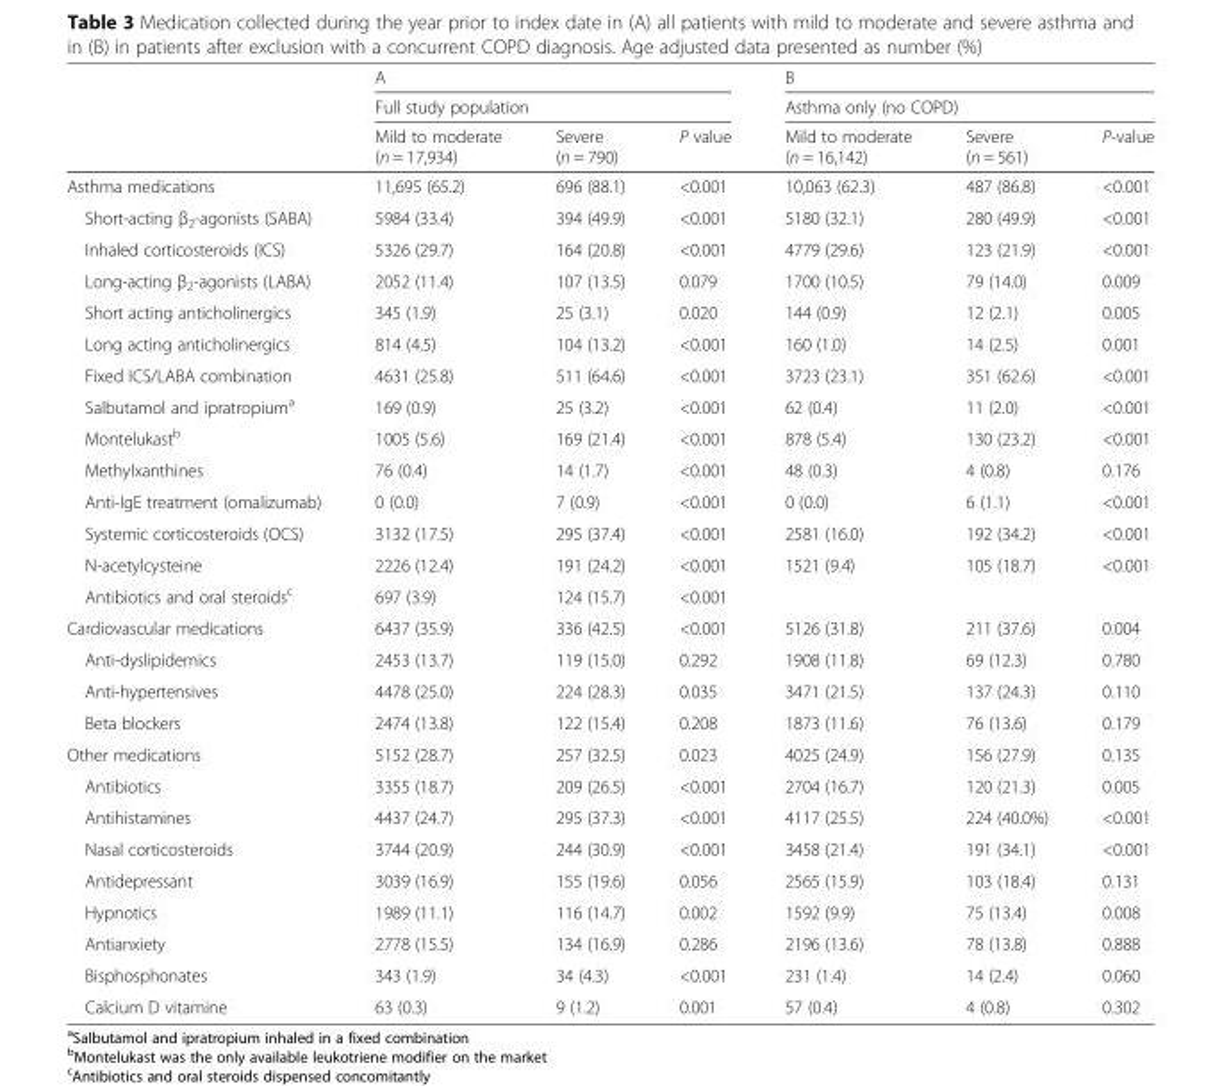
<table><thead><tr><td rowspan="3"></td><td rowspan="2" colspan="3">A Full study population</td><td rowspan="2" colspan="3">B Asthma only (no COPD)</td></tr><tr></tr><tr><td>Mild to moderate (n = 17,934)</td><td>Severe (n = 790)</td><td>P value</td><td>Mild to moderate (n = 16,142)</td><td>Severe (n = 561)</td><td>P-value</td></tr></thead><tbody><tr><td>Asthma medications</td><td>11,695 (65.2)</td><td>696 (88.1)</td><td>&lt;0.001</td><td>10,063 (62.3)</td><td>487 (86.8)</td><td>&lt;0.001</td></tr><tr><td>Short-acting β<sub>2</sub>-agonists (SABA)</td><td>5984 (33.4)</td><td>394 (49.9)</td><td>&lt;0.001</td><td>5180 (32.1)</td><td>280 (49.9)</td><td>&lt;0.001</td></tr><tr><td>Inhaled corticosteroids (ICS)</td><td>5326 (29.7)</td><td>164 (20.8)</td><td>&lt;0.001</td><td>4779 (29.6)</td><td>123 (21.9)</td><td>&lt;0.001</td></tr><tr><td>Long-acting β<sub>2</sub>-agonists (LABA)</td><td>2052 (11.4)</td><td>107 (13.5)</td><td>0.079</td><td>1700 (10.5)</td><td>79 (14.0)</td><td>0.009</td></tr><tr><td>Short acting anticholinergics</td><td>345 (1.9)</td><td>25 (3.1)</td><td>0.020</td><td>144 (0.9)</td><td>12 (2.1)</td><td>0.005</td></tr><tr><td>Long acting anticholinergics</td><td>814 (4.5)</td><td>104 (13.2)</td><td>&lt;0.001</td><td>160 (1.0)</td><td>14 (2.5)</td><td>0.001</td></tr><tr><td>Fixed ICS/LABA combination</td><td>4631 (25.8)</td><td>511 (64.6)</td><td>&lt;0.001</td><td>3723 (23.1)</td><td>351 (62.6)</td><td>&lt;0.001</td></tr><tr><td>Salbutamol and ipratropium<sup>a</sup></td><td>169 (0.9)</td><td>25 (3.2)</td><td>&lt;0.001</td><td>62 (0.4)</td><td>11 (2.0)</td><td>&lt;0.001</td></tr><tr><td>Montelukast<sup>b</sup></td><td>1005 (5.6)</td><td>169 (21.4)</td><td>&lt;0.001</td><td>878 (5.4)</td><td>130 (23.2)</td><td>&lt;0.001</td></tr><tr><td>Methylxanthines</td><td>76 (0.4)</td><td>14 (1.7)</td><td>&lt;0.001</td><td>48 (0.3)</td><td>4 (0.8)</td><td>0.176</td></tr><tr><td>Anti-IgE treatment (omalizumab)</td><td>0 (0.0)</td><td>7 (0.9)</td><td>&lt;0.001</td><td>0 (0.0)</td><td>6 (1.1)</td><td>&lt;0.001</td></tr><tr><td>Systemic corticosteroids (OCS)</td><td>3132 (17.5)</td><td>295 (37.4)</td><td>&lt;0.001</td><td>2581 (16.0)</td><td>192 (34.2)</td><td>&lt;0.001</td></tr><tr><td>N-acetylcysteine</td><td>2226 (12.4)</td><td>191 (24.2)</td><td>&lt;0.001</td><td>1521 (9.4)</td><td>105 (18.7)</td><td>&lt;0.001</td></tr><tr><td>Antibiotics and oral steroids<sup>c</sup></td><td>697 (3.9)</td><td>124 (15.7)</td><td>&lt;0.001</td><td></td><td></td><td></td></tr><tr><td>Cardiovascular medications</td><td>6437 (35.9)</td><td>336 (42.5)</td><td>&lt;0.001</td><td>5126 (31.8)</td><td>211 (37.6)</td><td>0.004</td></tr><tr><td>Anti-dyslipidemics</td><td>2453 (13.7)</td><td>119 (15.0)</td><td>0.292</td><td>1908 (11.8)</td><td>69 (12.3)</td><td>0.780</td></tr><tr><td>Anti-hypertensives</td><td>4478 (25.0)</td><td>224 (28.3)</td><td>0.035</td><td>3471 (21.5)</td><td>137 (24.3)</td><td>0.110</td></tr><tr><td>Beta blockers</td><td>2474 (13.8)</td><td>122 (15.4)</td><td>0.208</td><td>1873 (11.6)</td><td>76 (13.6)</td><td>0.179</td></tr><tr><td>Other medications</td><td>5152 (28.7)</td><td>257 (32.5)</td><td>0.023</td><td>4025 (24.9)</td><td>156 (27.9)</td><td>0.135</td></tr><tr><td>Antibiotics</td><td>3355 (18.7)</td><td>209 (26.5)</td><td>&lt;0.001</td><td>2704 (16.7)</td><td>120 (21.3)</td><td>0.005</td></tr><tr><td>Antihistamines</td><td>4437 (24.7)</td><td>295 (37.3)</td><td>&lt;0.001</td><td>4117 (25.5)</td><td>224 (40.0%)</td><td>&lt;0.001</td></tr><tr><td>Nasal corticosteroids</td><td>3744 (20.9)</td><td>244 (30.9)</td><td>&lt;0.001</td><td>3458 (21.4)</td><td>191 (34.1)</td><td>&lt;0.001</td></tr><tr><td>Antidepressant</td><td>3039 (16.9)</td><td>155 (19.6)</td><td>0.056</td><td>2565 (15.9)</td><td>103 (18.4)</td><td>0.131</td></tr><tr><td>Hypnotics</td><td>1989 (11.1)</td><td>116 (14.7)</td><td>0.002</td><td>1592 (9.9)</td><td>75 (13.4)</td><td>0.008</td></tr><tr><td>Antianxiety</td><td>2778 (15.5)</td><td>134 (16.9)</td><td>0.286</td><td>2196 (13.6)</td><td>78 (13.8)</td><td>0.888</td></tr><tr><td>Bisphosphonates</td><td>343 (1.9)</td><td>34 (4.3)</td><td>&lt;0.001</td><td>231 (1.4)</td><td>14 (2.4)</td><td>0.060</td></tr><tr><td>Calcium D vitamine</td><td>63 (0.3)</td><td>9 (1.2)</td><td>0.001</td><td>57 (0.4)</td><td>4 (0.8)</td><td>0.302</td></tr></tbody></table>